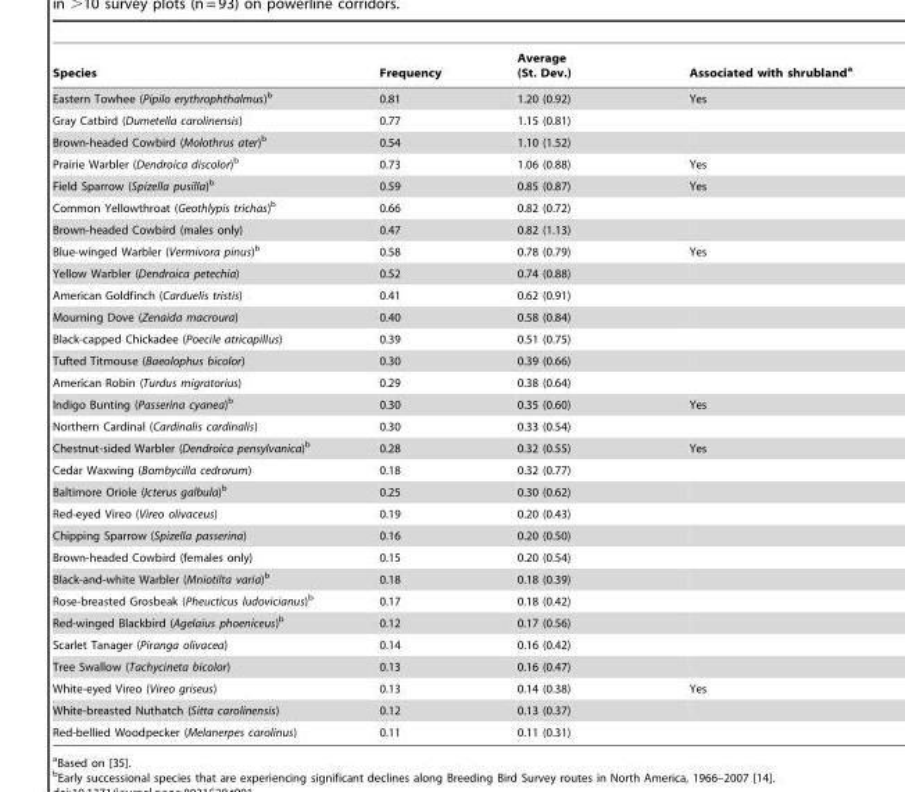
<table><thead><tr><td>Species</td><td>Frequency</td><td>Average (St. Dev.)</td><td>Associated with shrubland<sup>a</sup></td></tr></thead><tbody><tr><td>Eastern Towhee (Pipilo erythrophthalmus)<sup>b</sup></td><td>0.81</td><td>1.20 (0.92)</td><td>Yes</td></tr><tr><td>Gray Catbird (Dumetella carolinensis)</td><td>0.77</td><td>1.15 (0.81)</td><td></td></tr><tr><td>Brown-headed Cowbird (Molothrus ater)<sup>b</sup></td><td>0.54</td><td>1.10 (1.52)</td><td></td></tr><tr><td>Prairie Warbler (Dendroica discolor)<sup>b</sup></td><td>0.73</td><td>1.06 (0.88)</td><td>Yes</td></tr><tr><td>Field Sparrow (Spizella pusilla)<sup>b</sup></td><td>0.59</td><td>0.85 (0.87)</td><td>Yes</td></tr><tr><td>Common Yellowthroat (Geothlypis trichas)<sup>b</sup></td><td>0.66</td><td>0.82 (0.72)</td><td></td></tr><tr><td>Brown-headed Cowbird (males only)</td><td>0.47</td><td>0.82 (1.13)</td><td></td></tr><tr><td>Blue-winged Warbler (Vermivora pinus)<sup>b</sup></td><td>0.58</td><td>0.78 (0.79)</td><td>Yes</td></tr><tr><td>Yellow Warbler (Dendroica petechia)</td><td>0.52</td><td>0.74 (0.88)</td><td></td></tr><tr><td>American Goldfinch (Carduelis tristis)</td><td>0.41</td><td>0.62 (0.91)</td><td></td></tr><tr><td>Mourning Dove (Zenaida macroura)</td><td>0.40</td><td>0.58 (0.84)</td><td></td></tr><tr><td>Black-capped Chickadee (Poecile atricapillus)</td><td>0.39</td><td>0.51 (0.75)</td><td></td></tr><tr><td>Tufted Titmouse (Baeolophus bicolor)</td><td>0.30</td><td>0.39 (0.66)</td><td></td></tr><tr><td>American Robin (Turdus migratorius)</td><td>0.29</td><td>0.38 (0.64)</td><td></td></tr><tr><td>Indigo Bunting (Passerina cyanea)<sup>b</sup></td><td>0.30</td><td>0.35 (0.60)</td><td>Yes</td></tr><tr><td>Northern Cardinal (Cardinalis cardinalis)</td><td>0.30</td><td>0.33 (0.54)</td><td></td></tr><tr><td>Chestnut-sided Warbler (Dendroica pensylvanica)<sup>b</sup></td><td>0.28</td><td>0.32 (0.55)</td><td>Yes</td></tr><tr><td>Cedar Waxwing (Bombycilla cedrorum)</td><td>0.18</td><td>0.32 (0.77)</td><td></td></tr><tr><td>Baltimore Oriole (Icterus galbula)<sup>b</sup></td><td>0.25</td><td>0.30 (0.62)</td><td></td></tr><tr><td>Red-eyed Vireo (Vireo olivaceus)</td><td>0.19</td><td>0.20 (0.43)</td><td></td></tr><tr><td>Chipping Sparrow (Spizella passerina)</td><td>0.16</td><td>0.20 (0.50)</td><td></td></tr><tr><td>Brown-headed Cowbird (females only)</td><td>0.15</td><td>0.20 (0.54)</td><td></td></tr><tr><td>Black-and-white Warbler (Mniotilta varia)<sup>b</sup></td><td>0.18</td><td>0.18 (0.39)</td><td></td></tr><tr><td>Rose-breasted Grosbeak (Pheucticus ludovicianus)<sup>b</sup></td><td>0.17</td><td>0.18 (0.42)</td><td></td></tr><tr><td>Red-winged Blackbird (Agelaius phoeniceus)<sup>b</sup></td><td>0.12</td><td>0.17 (0.56)</td><td></td></tr><tr><td>Scarlet Tanager (Piranga olivacea)</td><td>0.14</td><td>0.16 (0.42)</td><td></td></tr><tr><td>Tree Swallow (Tachycineta bicolor)</td><td>0.13</td><td>0.16 (0.47)</td><td></td></tr><tr><td>White-eyed Vireo (Vireo griseus)</td><td>0.13</td><td>0.14 (0.38)</td><td>Yes</td></tr><tr><td>White-breasted Nuthatch (Sitta carolinensis)</td><td>0.12</td><td>0.13 (0.37)</td><td></td></tr><tr><td>Red-bellied Woodpecker (Melanerpes carolinus)</td><td>0.11</td><td>0.11 (0.31)</td><td></td></tr></tbody></table>